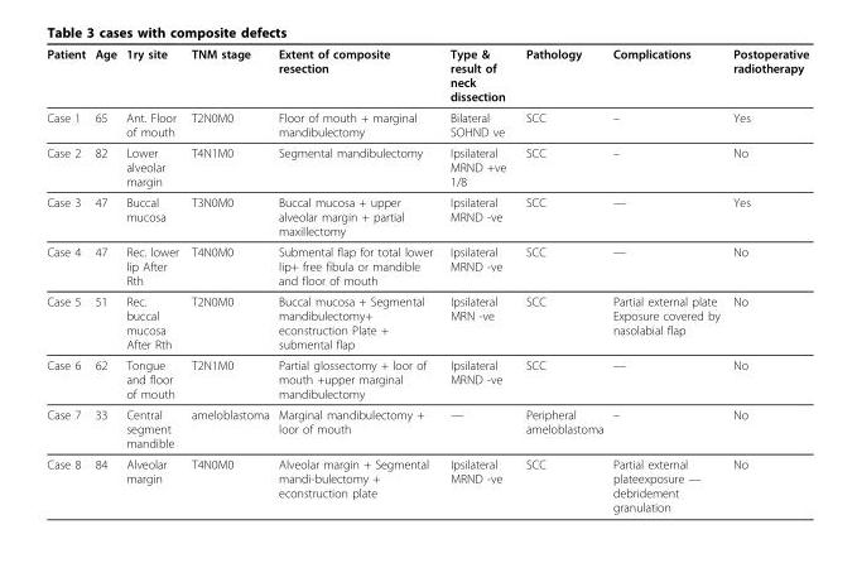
<table><thead><tr><td>Patient</td><td>Age</td><td>1ry site</td><td>TNM stage</td><td>Extent of composite resection</td><td>Type &amp; result of neck dissection</td><td>Pathology</td><td>Complications</td><td>Postoperative radiotherapy</td></tr></thead><tbody><tr><td>Case 1</td><td>65</td><td>Ant. Floor of mouth</td><td>T2N0M0</td><td>Floor of mouth + marginal mandibulectomy</td><td>Bilateral SOHND ve</td><td>SCC</td><td>–</td><td>Yes</td></tr><tr><td>Case 2</td><td>82</td><td>Lower alveolar margin</td><td>T4N1M0</td><td>Segmental mandibulectomy</td><td>Ipsilateral MRND +ve 1/8</td><td>SCC</td><td>–</td><td>No</td></tr><tr><td>Case 3</td><td>47</td><td>Buccal mucosa</td><td>T3N0M0</td><td>Buccal mucosa + upper alveolar margin + partial maxillectomy</td><td>Ipsilateral MRND -ve</td><td>SCC</td><td>—</td><td>Yes</td></tr><tr><td>Case 4</td><td>47</td><td>Rec. lower lip After Rth</td><td>T4N0M0</td><td>Submental flap for total lower lip+ free fibula or mandible and floor of mouth</td><td>Ipsilateral MRND -ve</td><td>SCC</td><td>—</td><td>No</td></tr><tr><td>Case 5</td><td>51</td><td>Rec. buccal mucosa After Rth</td><td>T2N0M0</td><td>Buccal mucosa + Segmental mandibulectomy+ econstruction Plate + submental flap</td><td>Ipsilateral MRN -ve</td><td>SCC</td><td>Partial external plate Exposure covered by nasolabial flap</td><td>No</td></tr><tr><td>Case 6</td><td>62</td><td>Tongue and floor of mouth</td><td>T2N1M0</td><td>Partial glossectomy + loor of mouth +upper marginal mandibulectomy</td><td>Ipsilateral MRND -ve</td><td>SCC</td><td>—</td><td>No</td></tr><tr><td>Case 7</td><td>33</td><td>Central segment mandible</td><td>ameloblastoma</td><td>Marginal mandibulectomy + loor of mouth</td><td>—</td><td>Peripheral ameloblastoma</td><td>–</td><td>No</td></tr><tr><td>Case 8</td><td>84</td><td>Alveolar margin</td><td>T4N0M0</td><td>Alveolar margin + Segmental mandi-bulectomy + econstruction plate</td><td>Ipsilateral MRND -ve</td><td>SCC</td><td>Partial external plateexposure — debridement granulation</td><td>No</td></tr></tbody></table>